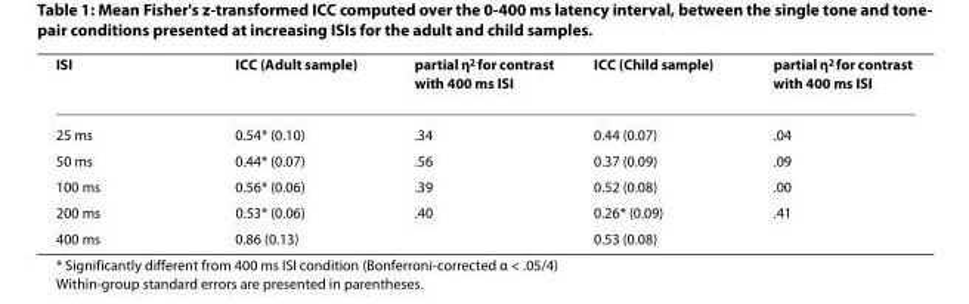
<table><thead><tr><td>ISI</td><td>ICC (Adult sample)</td><td>partial η<sup>2</sup> for contrast with 400 ms ISI</td><td>ICC (Child sample)</td><td>partial η<sup>2</sup> for contrast with 400 ms ISI</td></tr></thead><tbody><tr><td>25 ms</td><td>0.54* (0.10)</td><td>.34</td><td>0.44 (0.07)</td><td>.04</td></tr><tr><td>50 ms</td><td>0.44* (0.07)</td><td>.56</td><td>0.37 (0.09)</td><td>.09</td></tr><tr><td>100 ms</td><td>0.56* (0.06)</td><td>.39</td><td>0.52 (0.08)</td><td>.00</td></tr><tr><td>200 ms</td><td>0.53* (0.06)</td><td>.40</td><td>0.26* (0.09)</td><td>.41</td></tr><tr><td>400 ms</td><td>0.86 (0.13)</td><td></td><td>0.53 (0.08)</td><td></td></tr></tbody></table>